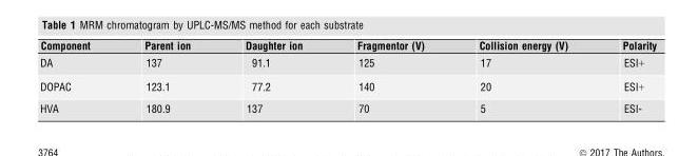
<table><thead><tr><td>Component</td><td>Parent ion</td><td>Daughter ion</td><td>Fragmentor (V)</td><td>Collision energy (V)</td><td>Polarity</td></tr></thead><tbody><tr><td>DA</td><td>137</td><td>91.1</td><td>125</td><td>17</td><td>ESI+</td></tr><tr><td>DOPAC</td><td>123.1</td><td>77.2</td><td>140</td><td>20</td><td>ESI+</td></tr><tr><td>HVA</td><td>180.9</td><td>137</td><td>70</td><td>5</td><td>ESI-</td></tr></tbody></table>